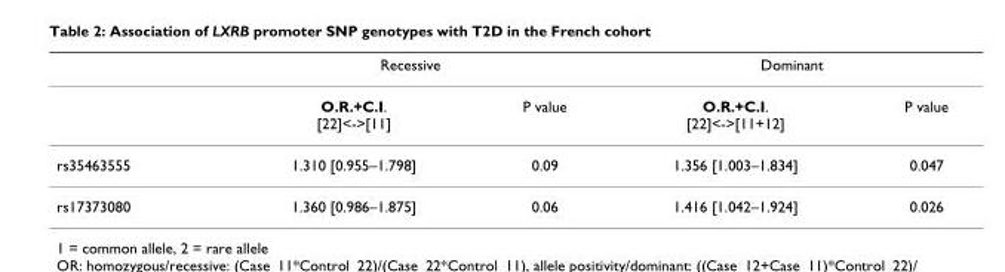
<table><thead><tr><td rowspan="2"></td><td colspan="2">Recessive</td><td colspan="2">Dominant</td></tr><tr><td>O.R.+C.I. [22]&lt;-&gt;[11]</td><td>P value</td><td>O.R.+C.I. [22]&lt;-&gt;[11+12]</td><td>P value</td></tr></thead><tbody><tr><td>rs35463555</td><td>1.310 [0.955–1.798]</td><td>0.09</td><td>1.356 [1.003–1.834]</td><td>0.047</td></tr><tr><td>rs17373080</td><td>1.360 [0.986–1.875]</td><td>0.06</td><td>1.416 [1.042–1.924]</td><td>0.026</td></tr></tbody></table>